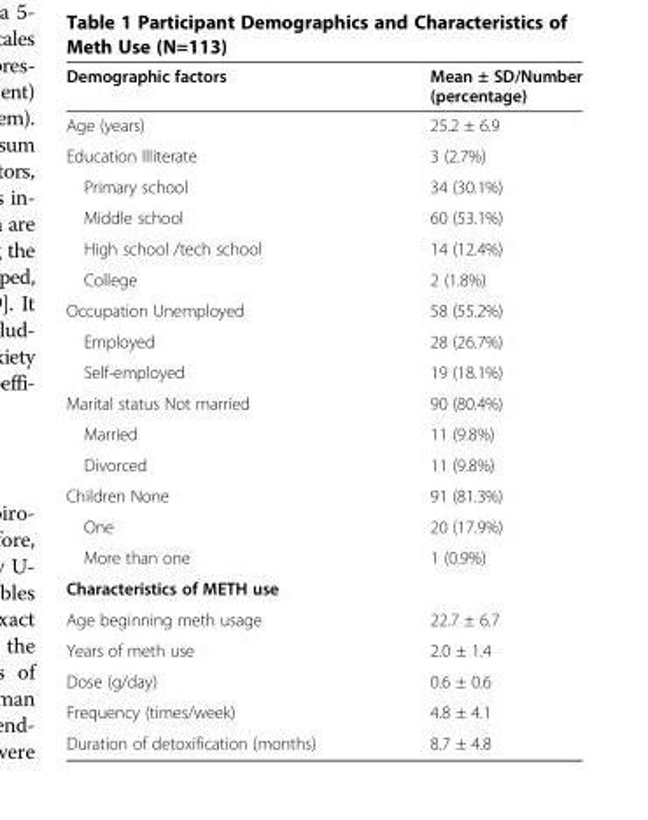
<table><thead><tr><td>Demographic factors</td><td>Mean ± SD/Number (percentage)</td></tr></thead><tbody><tr><td>Age (years)</td><td>25.2 ± 6.9</td></tr><tr><td>Education Illiterate</td><td>3 (2.7%)</td></tr><tr><td>Primary school</td><td>34 (30.1%)</td></tr><tr><td>Middle school</td><td>60 (53.1%)</td></tr><tr><td>High school /tech school</td><td>14 (12.4%)</td></tr><tr><td>College</td><td>2 (1.8%)</td></tr><tr><td>Occupation Unemployed</td><td>58 (55.2%)</td></tr><tr><td>Employed</td><td>28 (26.7%)</td></tr><tr><td>Self-employed</td><td>19 (18.1%)</td></tr><tr><td>Marital status Not married</td><td>90 (80.4%)</td></tr><tr><td>Married</td><td>11 (9.8%)</td></tr><tr><td>Divorced</td><td>11 (9.8%)</td></tr><tr><td>Children None</td><td>91 (81.3%)</td></tr><tr><td>One</td><td>20 (17.9%)</td></tr><tr><td>More than one</td><td>1 (0.9%)</td></tr><tr><td colspan="2">Characteristics of METH use</td></tr><tr><td>Age beginning meth usage</td><td>22.7 ± 6.7</td></tr><tr><td>Years of meth use</td><td>2.0 ± 1.4</td></tr><tr><td>Dose (g/day)</td><td>0.6 ± 0.6</td></tr><tr><td>Frequency (times/week)</td><td>4.8 ± 4.1</td></tr><tr><td>Duration of detoxification (months)</td><td>8.7 ± 4.8</td></tr></tbody></table>